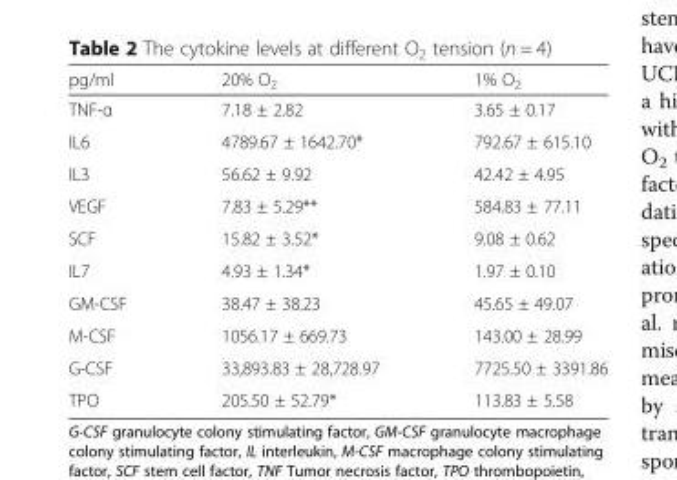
<table><thead><tr><td>pg/ml</td><td>20% O<sub>2</sub></td><td>1% O<sub>2</sub></td></tr></thead><tbody><tr><td>TNF-α</td><td>7.18 ± 2.82</td><td>3.65 ± 0.17</td></tr><tr><td>IL6</td><td>4789.67 ± 1642.70*</td><td>792.67 ± 615.10</td></tr><tr><td>IL3</td><td>56.62 ± 9.92</td><td>42.42 ± 4.95</td></tr><tr><td>VEGF</td><td>7.83 ± 5.29**</td><td>584.83 ± 77.11</td></tr><tr><td>SCF</td><td>15.82 ± 3.52*</td><td>9.08 ± 0.62</td></tr><tr><td>IL7</td><td>4.93 ± 1.34*</td><td>1.97 ± 0.10</td></tr><tr><td>GM-CSF</td><td>38.47 ± 38.23</td><td>45.65 ± 49.07</td></tr><tr><td>M-CSF</td><td>1056.17 ± 669.73</td><td>143.00 ± 28.99</td></tr><tr><td>G-CSF</td><td>33,893.83 ± 28,728.97</td><td>7725.50 ± 3391.86</td></tr><tr><td>TPO</td><td>205.50 ± 52.79*</td><td>113.83 ± 5.58</td></tr></tbody></table>